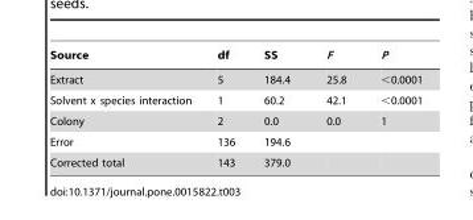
<table><thead><tr><td>Source</td><td>df</td><td>SS</td><td>F</td><td>P</td></tr></thead><tbody><tr><td>Extract</td><td>5</td><td>184.4</td><td>25.8</td><td>&lt;0.0001</td></tr><tr><td>Solvent x species interaction</td><td>1</td><td>60.2</td><td>42.1</td><td>&lt;0.0001</td></tr><tr><td>Colony</td><td>2</td><td>0.0</td><td>0.0</td><td>1</td></tr><tr><td>Error</td><td>136</td><td>194.6</td><td></td><td></td></tr><tr><td>Corrected total</td><td>143</td><td>379.0</td><td></td><td></td></tr></tbody></table>